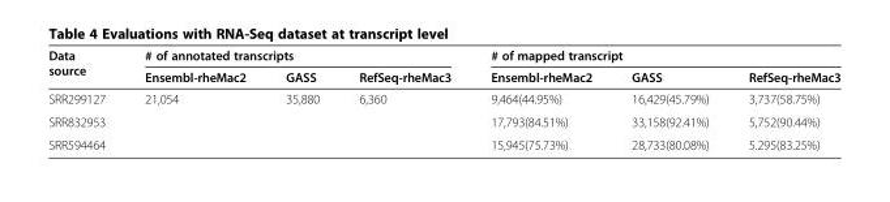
<table><thead><tr><td rowspan="2">Data source</td><td colspan="3"># of annotated transcripts</td><td colspan="3"># of mapped transcript</td></tr><tr><td>Ensembl-rheMac2</td><td>GASS</td><td>RefSeq-rheMac3</td><td>Ensembl-rheMac2</td><td>GASS</td><td>RefSeq-rheMac3</td></tr></thead><tbody><tr><td>SRR299127</td><td rowspan="3">21,054</td><td rowspan="3">35,880</td><td rowspan="3">6,360</td><td>9,464(44.95%)</td><td>16,429(45.79%)</td><td>3,737(58.75%)</td></tr><tr><td>SRR832953</td><td>17,793(84.51%)</td><td>33,158(92.41%)</td><td>5,752(90.44%)</td></tr><tr><td>SRR594464</td><td>15,945(75.73%)</td><td>28,733(80.08%)</td><td>5.295(83.25%)</td></tr></tbody></table>